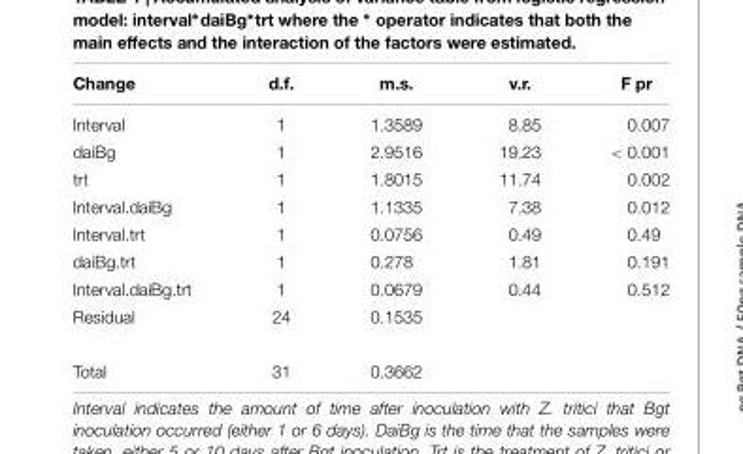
<table><thead><tr><td>Change</td><td>d.f.</td><td>m.s.</td><td>v.r.</td><td>F pr</td></tr></thead><tbody><tr><td>Interval</td><td>1</td><td>1.3589</td><td>8.85</td><td>0.007</td></tr><tr><td>daiBg</td><td>1</td><td>2.9516</td><td>19.23</td><td>&lt; 0.001</td></tr><tr><td>trt</td><td>1</td><td>1.8015</td><td>11.74</td><td>0.002</td></tr><tr><td>Interval.daiBg</td><td>1</td><td>1.1335</td><td>7.38</td><td>0.012</td></tr><tr><td>Interval.trt</td><td>1</td><td>0.0756</td><td>0.49</td><td>0.49</td></tr><tr><td>daiBg.trt</td><td>1</td><td>0.278</td><td>1.81</td><td>0.191</td></tr><tr><td>Interval.daiBg.trt</td><td>1</td><td>0.0679</td><td>0.44</td><td>0.512</td></tr><tr><td>Residual</td><td>24</td><td>0.1535</td><td></td><td></td></tr><tr><td>Total</td><td>31</td><td>0.3662</td><td></td><td></td></tr></tbody></table>